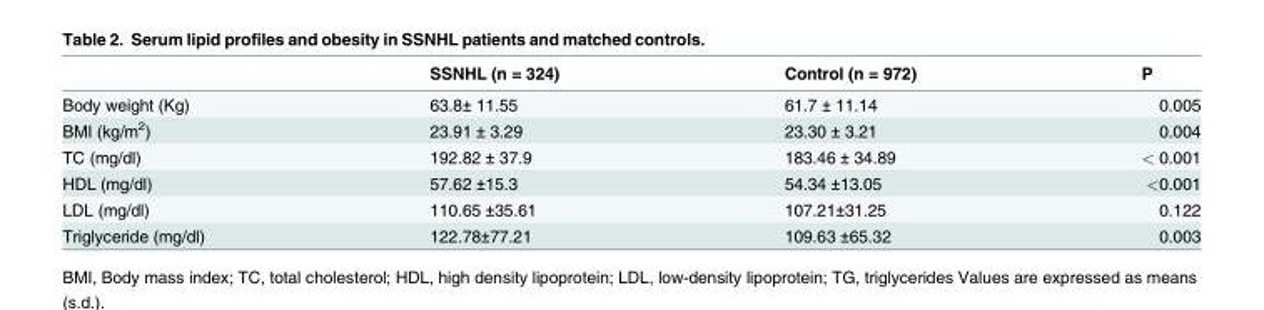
<table><thead><tr><td></td><td>SSNHL (n = 324)</td><td>Control (n = 972)</td><td>P</td></tr></thead><tbody><tr><td>Body weight (Kg)</td><td>63.8± 11.55</td><td>61.7 ± 11.14</td><td>0.005</td></tr><tr><td>BMI (kg/m<sup>2</sup>)</td><td>23.91 ± 3.29</td><td>23.30 ± 3.21</td><td>0.004</td></tr><tr><td>TC (mg/dl)</td><td>192.82 ± 37.9</td><td>183.46 ± 34.89</td><td>&lt; 0.001</td></tr><tr><td>HDL (mg/dl)</td><td>57.62 ±15.3</td><td>54.34 ±13.05</td><td>&lt;0.001</td></tr><tr><td>LDL (mg/dl)</td><td>110.65 ±35.61</td><td>107.21±31.25</td><td>0.122</td></tr><tr><td>Triglyceride (mg/dl)</td><td>122.78±77.21</td><td>109.63 ±65.32</td><td>0.003</td></tr></tbody></table>